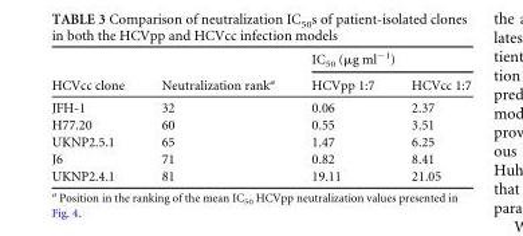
<table><thead><tr><td rowspan="2">HCVcc clone</td><td rowspan="2">Neutralization rank<sup>a</sup></td><td colspan="2">IC<sub>50</sub> (μg ml<sup>−1</sup>)</td></tr><tr><td>HCVpp 1:7</td><td>HCVcc 1:7</td></tr></thead><tbody><tr><td>JFH-1</td><td>32</td><td>0.06</td><td>2.37</td></tr><tr><td>H77.20</td><td>60</td><td>0.55</td><td>3.51</td></tr><tr><td>UKNP2.5.1</td><td>65</td><td>1.47</td><td>6.25</td></tr><tr><td>J6</td><td>71</td><td>0.82</td><td>8.41</td></tr><tr><td>UKNP2.4.1</td><td>81</td><td>19.11</td><td>21.05</td></tr></tbody></table>